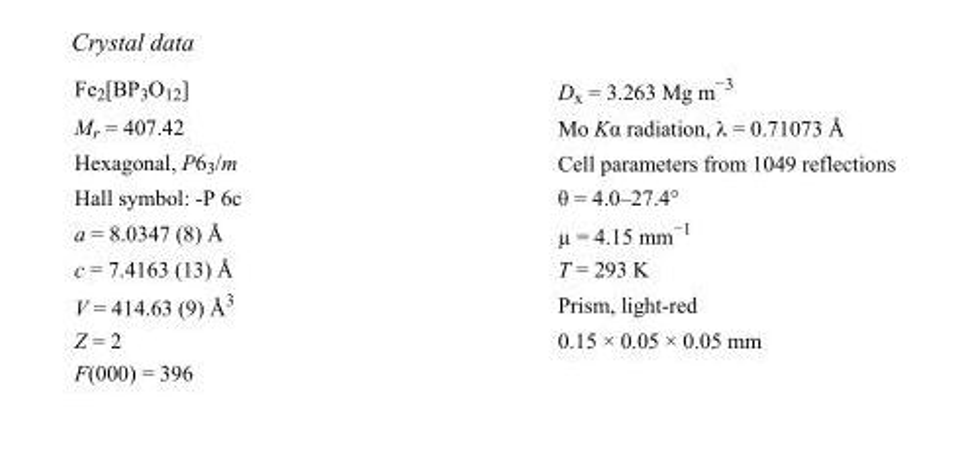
<table><tbody><tr><td>Fe<sub>2</sub>[BP<sub>3</sub>O<sub>12</sub>]</td><td>D<sub>x</sub> = 3.263 Mg m<sup>−3</sup></td></tr><tr><td>M<sub>r</sub> = 407.42</td><td>Mo Kα radiation, λ = 0.71073 Å</td></tr><tr><td>Hexagonal, P6<sub>3</sub>/m</td><td>Cell parameters from 1049 reflections</td></tr><tr><td>Hall symbol: -P 6c</td><td>θ = 4.0–27.4°</td></tr><tr><td>a = 8.0347 (8) Å</td><td>µ = 4.15 mm<sup>−1</sup></td></tr><tr><td>c = 7.4163 (13) Å</td><td>T = 293 K</td></tr><tr><td>V = 414.63 (9) Å<sup>3</sup></td><td>Prism, light-red</td></tr><tr><td>Z = 2</td><td>0.15 × 0.05 × 0.05 mm</td></tr><tr><td>F(000) = 396</td><td></td></tr></tbody></table>